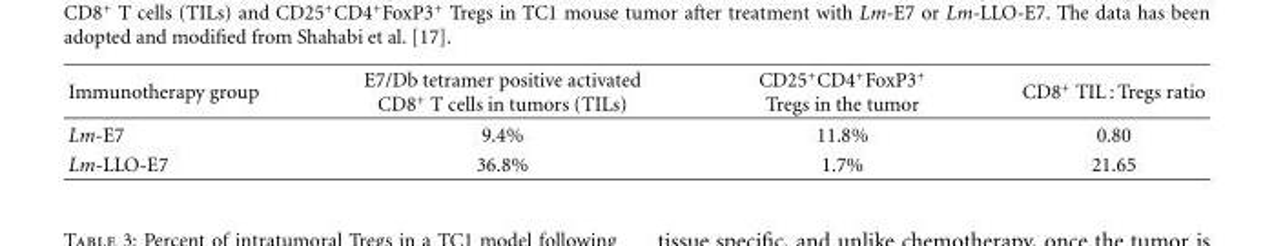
<table><thead><tr><td>Immunotherapy group</td><td>E7/Db tetramer positive activated CD8<sup>+</sup> T cells in tumors (TILs)</td><td>CD25<sup>+</sup>CD4<sup>+</sup>FoxP3<sup>+</sup> Tregs in the tumor</td><td>CD8<sup>+</sup> TIL : Tregs ratio</td></tr></thead><tbody><tr><td>Lm-E7</td><td>9.4%</td><td>11.8%</td><td>0.80</td></tr><tr><td>Lm-LLO-E7</td><td>36.8%</td><td>1.7%</td><td>21.65</td></tr></tbody></table>